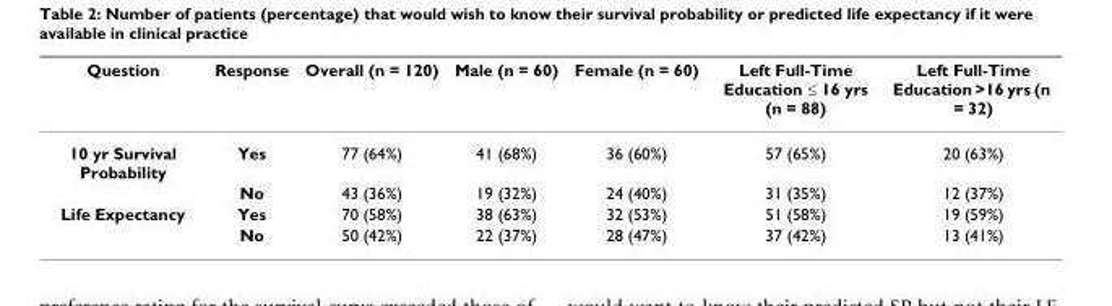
<table><thead><tr><td>Question</td><td>Response</td><td>Overall (n = 120)</td><td>Male (n = 60)</td><td>Female (n = 60)</td><td>Left Full-Time Education ≤ 16 yrs (n = 88)</td><td>Left Full-Time Education &gt;16 yrs (n = 32)</td></tr></thead><tbody><tr><td rowspan="2">10 yr Survival Probability</td><td>Yes</td><td>77 (64%)</td><td>41 (68%)</td><td>36 (60%)</td><td>57 (65%)</td><td>20 (63%)</td></tr><tr><td>No</td><td>43 (36%)</td><td>19 (32%)</td><td>24 (40%)</td><td>31 (35%)</td><td>12 (37%)</td></tr><tr><td rowspan="2">Life Expectancy</td><td>Yes</td><td>70 (58%)</td><td>38 (63%)</td><td>32 (53%)</td><td>51 (58%)</td><td>19 (59%)</td></tr><tr><td>No</td><td>50 (42%)</td><td>22 (37%)</td><td>28 (47%)</td><td>37 (42%)</td><td>13 (41%)</td></tr></tbody></table>